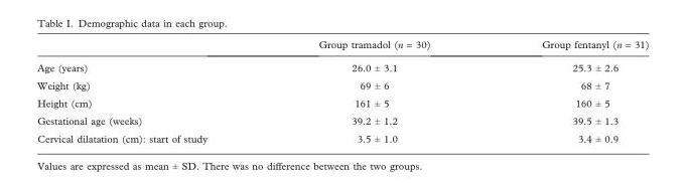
<table><thead><tr><td></td><td>Group tramadol (n = 30)</td><td>Group fentanyl (n = 31)</td></tr></thead><tbody><tr><td>Age (years)</td><td>26.0 ± 3.1</td><td>25.3 ± 2.6</td></tr><tr><td>Weight (kg)</td><td>69 ± 6</td><td>68 ± 7</td></tr><tr><td>Height (cm)</td><td>161 ± 5</td><td>160 ± 5</td></tr><tr><td>Gestational age (weeks)</td><td>39.2 ± 1.2</td><td>39.5 ± 1.3</td></tr><tr><td>Cervical dilatation (cm): start of study</td><td>3.5 ± 1.0</td><td>3.4 ± 0.9</td></tr></tbody></table>